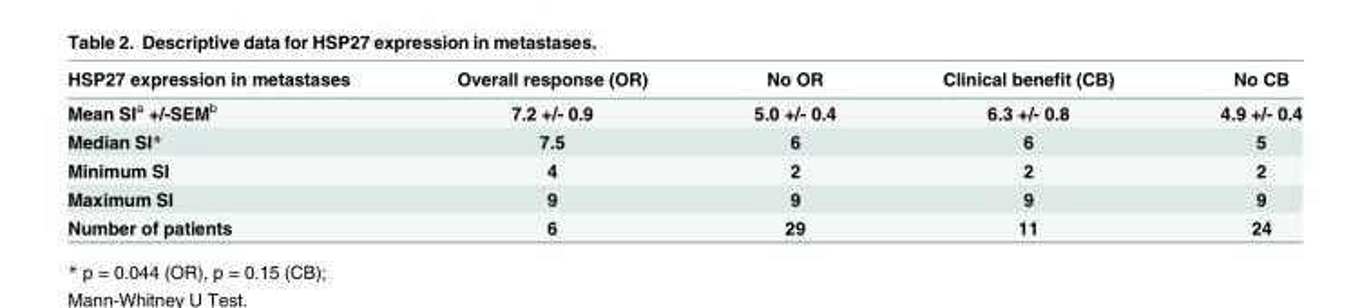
<table><thead><tr><td>HSP27 expression in metastases</td><td>Overall response (OR)</td><td>No OR</td><td>Clinical benefit (CB)</td><td>No CB</td></tr></thead><tbody><tr><td>Mean SI<sup>a</sup> +/-SEM<sup>b</sup></td><td>7.2 +/- 0.9</td><td>5.0 +/- 0.4</td><td>6.3 +/- 0.8</td><td>4.9 +/- 0.4</td></tr><tr><td>Median SI*</td><td>7.5</td><td>6</td><td>6</td><td>5</td></tr><tr><td>Minimum SI</td><td>4</td><td>2</td><td>2</td><td>2</td></tr><tr><td>Maximum SI</td><td>9</td><td>9</td><td>9</td><td>9</td></tr><tr><td>Number of patients</td><td>6</td><td>29</td><td>11</td><td>24</td></tr></tbody></table>